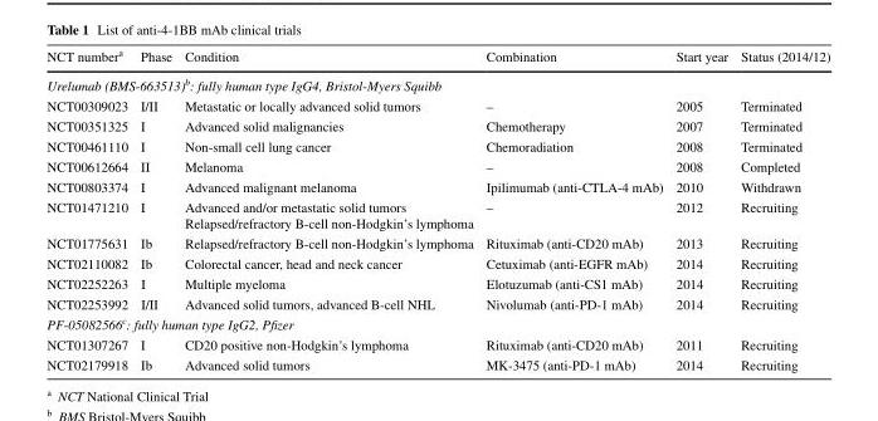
<table><thead><tr><td>NCT number<sup>a</sup></td><td>Phase</td><td>Condition</td><td>Combination</td><td>Start year</td><td>Status (2014/12)</td></tr></thead><tbody><tr><td colspan="6">Urelumab (BMS-663513)<sup>b</sup>: fully human type IgG4, Bristol-Myers Squibb</td></tr><tr><td>NCT00309023</td><td>I/II</td><td>Metastatic or locally advanced solid tumors</td><td>–</td><td>2005</td><td>Terminated</td></tr><tr><td>NCT00351325</td><td>I</td><td>Advanced solid malignancies</td><td>Chemotherapy</td><td>2007</td><td>Terminated</td></tr><tr><td>NCT00461110</td><td>I</td><td>Non-small cell lung cancer</td><td>Chemoradiation</td><td>2008</td><td>Terminated</td></tr><tr><td>NCT00612664</td><td>II</td><td>Melanoma</td><td>–</td><td>2008</td><td>Completed</td></tr><tr><td>NCT00803374</td><td>I</td><td>Advanced malignant melanoma</td><td>Ipilimumab (anti-CTLA-4 mAb)</td><td>2010</td><td>Withdrawn</td></tr><tr><td>NCT01471210</td><td>I</td><td>Advanced and/or metastatic solid tumors Relapsed/refractory B-cell non-Hodgkin’s lymphoma</td><td>–</td><td>2012</td><td>Recruiting</td></tr><tr><td>NCT01775631</td><td>Ib</td><td>Relapsed/refractory B-cell non-Hodgkin’s lymphoma</td><td>Rituximab (anti-CD20 mAb)</td><td>2013</td><td>Recruiting</td></tr><tr><td>NCT02110082</td><td>Ib</td><td>Colorectal cancer, head and neck cancer</td><td>Cetuximab (anti-EGFR mAb)</td><td>2014</td><td>Recruiting</td></tr><tr><td>NCT02252263</td><td>I</td><td>Multiple myeloma</td><td>Elotuzumab (anti-CS1 mAb)</td><td>2014</td><td>Recruiting</td></tr><tr><td>NCT02253992</td><td>I/II</td><td>Advanced solid tumors, advanced B-cell NHL</td><td>Nivolumab (anti-PD-1 mAb)</td><td>2014</td><td>Recruiting</td></tr><tr><td colspan="6">PF-05082566<sup>c</sup>: fully human type IgG2, Pfizer</td></tr><tr><td>NCT01307267</td><td>I</td><td>CD20 positive non-Hodgkin’s lymphoma</td><td>Rituximab (anti-CD20 mAb)</td><td>2011</td><td>Recruiting</td></tr><tr><td>NCT02179918</td><td>Ib</td><td>Advanced solid tumors</td><td>MK-3475 (anti-PD-1 mAb)</td><td>2014</td><td>Recruiting</td></tr></tbody></table>